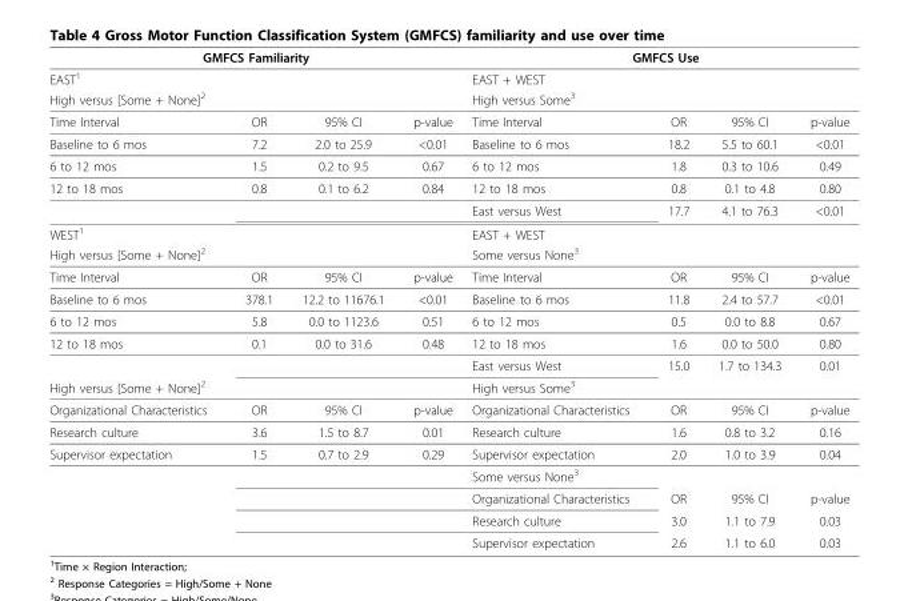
<table><thead><tr><td rowspan="3" colspan="4">GMFCS Familiarity EAST<sup>1</sup> High versus [Some + None]<sup>2</sup></td><td rowspan="3" colspan="4">GMFCS Use EAST + WEST High versus Some<sup>3</sup></td></tr><tr></tr><tr></tr><tr><td>Time Interval</td><td>OR</td><td>95% CI</td><td>p-value</td><td>Time Interval</td><td>OR</td><td>95% CI</td><td>p-value</td></tr></thead><tbody><tr><td>Baseline to 6 mos</td><td>7.2</td><td>2.0 to 25.9</td><td>&lt;0.01</td><td>Baseline to 6 mos</td><td>18.2</td><td>5.5 to 60.1</td><td>&lt;0.01</td></tr><tr><td>6 to 12 mos</td><td>1.5</td><td>0.2 to 9.5</td><td>0.67</td><td>6 to 12 mos</td><td>1.8</td><td>0.3 to 10.6</td><td>0.49</td></tr><tr><td rowspan="2">12 to 18 mos</td><td>0.8</td><td>0.1 to 6.2</td><td>0.84</td><td>12 to 18 mos</td><td>0.8</td><td>0.1 to 4.8</td><td>0.80</td></tr><tr><td></td><td></td><td></td><td>East versus West</td><td>17.7</td><td>4.1 to 76.3</td><td>&lt;0.01</td></tr><tr><td colspan="4">WEST<sup>1</sup></td><td colspan="4">EAST + WEST</td></tr><tr><td colspan="4">High versus [Some + None]<sup>2</sup></td><td colspan="4">Some versus None<sup>3</sup></td></tr><tr><td>Time Interval</td><td>OR</td><td>95% CI</td><td>p-value</td><td>Time Interval</td><td>OR</td><td>95% CI</td><td>p-value</td></tr><tr><td>Baseline to 6 mos</td><td>378.1</td><td>12.2 to 11676.1</td><td>&lt;0.01</td><td>Baseline to 6 mos</td><td>11.8</td><td>2.4 to 57.7</td><td>&lt;0.01</td></tr><tr><td>6 to 12 mos</td><td>5.8</td><td>0.0 to 1123.6</td><td>0.51</td><td>6 to 12 mos</td><td>0.5</td><td>0.0 to 8.8</td><td>0.67</td></tr><tr><td rowspan="2">12 to 18 mos</td><td>0.1</td><td>0.0 to 31.6</td><td>0.48</td><td>12 to 18 mos</td><td>1.6</td><td>0.0 to 50.0</td><td>0.80</td></tr><tr><td></td><td></td><td></td><td>East versus West</td><td>15.0</td><td>1.7 to 134.3</td><td>0.01</td></tr><tr><td colspan="4">High versus [Some + None]<sup>2</sup></td><td colspan="4">High versus Some<sup>3</sup></td></tr><tr><td>Organizational Characteristics</td><td>OR</td><td>95% CI</td><td>p-value</td><td>Organizational Characteristics</td><td>OR</td><td>95% CI</td><td>p-value</td></tr><tr><td>Research culture</td><td>3.6</td><td>1.5 to 8.7</td><td>0.01</td><td>Research culture</td><td>1.6</td><td>0.8 to 3.2</td><td>0.16</td></tr><tr><td rowspan="5">Supervisor expectation</td><td>1.5</td><td>0.7 to 2.9</td><td>0.29</td><td>Supervisor expectation</td><td>2.0</td><td>1.0 to 3.9</td><td>0.04</td></tr><tr><td></td><td></td><td></td><td colspan="4">Some versus None<sup>3</sup></td></tr><tr><td></td><td></td><td></td><td>Organizational Characteristics</td><td>OR</td><td>95% CI</td><td>p-value</td></tr><tr><td></td><td></td><td></td><td>Research culture</td><td>3.0</td><td>1.1 to 7.9</td><td>0.03</td></tr><tr><td></td><td></td><td></td><td>Supervisor expectation</td><td>2.6</td><td>1.1 to 6.0</td><td>0.03</td></tr></tbody></table>